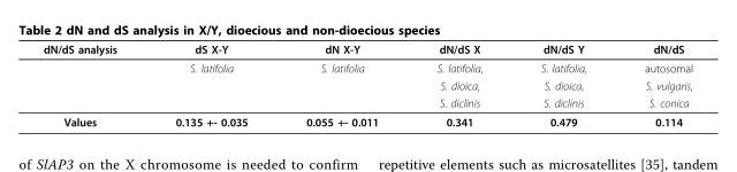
<table><thead><tr><td>dN/dS analysis</td><td>dS X-Y</td><td>dN X-Y</td><td>dN/dS X</td><td>dN/dS Y</td><td>dN/dS</td></tr></thead><tbody><tr><td></td><td>S. latifolia</td><td>S. latifolia</td><td>S. latifolia,</td><td>S. latifolia,</td><td>autosomal</td></tr><tr><td></td><td></td><td></td><td>S. dioica,</td><td>S. dioica,</td><td>S. vulgaris,</td></tr><tr><td></td><td></td><td></td><td>S. diclinis</td><td>S. diclinis</td><td>S. conica</td></tr><tr><td>Values</td><td>0.135 +- 0.035</td><td>0.055 +- 0.011</td><td>0.341</td><td>0.479</td><td>0.114</td></tr></tbody></table>